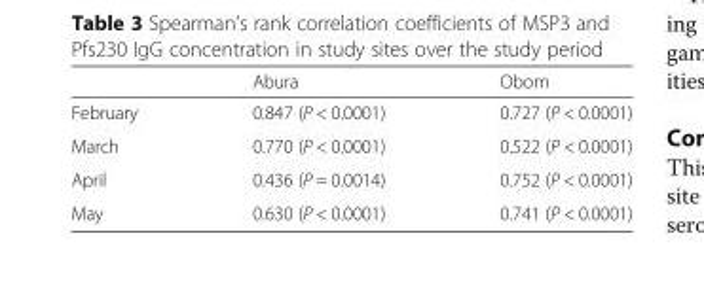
<table><thead><tr><td></td><td>Abura</td><td>Obom</td></tr></thead><tbody><tr><td>February</td><td>0.847 (P &lt; 0.0001)</td><td>0.727 (P &lt; 0.0001)</td></tr><tr><td>March</td><td>0.770 (P &lt; 0.0001)</td><td>0.522 (P &lt; 0.0001)</td></tr><tr><td>April</td><td>0.436 (P = 0.0014)</td><td>0.752 (P &lt; 0.0001)</td></tr><tr><td>May</td><td>0.630 (P &lt; 0.0001)</td><td>0.741 (P &lt; 0.0001)</td></tr></tbody></table>